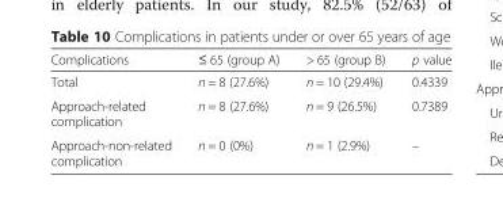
<table><thead><tr><td>Complications</td><td>≤ 65 (group A)</td><td>&gt; 65 (group B)</td><td>p value</td></tr></thead><tbody><tr><td>Total</td><td>n = 8 (27.6%)</td><td>n = 10 (29.4%)</td><td>0.4339</td></tr><tr><td>Approach-related complication</td><td>n = 8 (27.6%)</td><td>n = 9 (26.5%)</td><td>0.7389</td></tr><tr><td>Approach-non-related complication</td><td>n = 0 (0%)</td><td>n = 1 (2.9%)</td><td>–</td></tr></tbody></table>